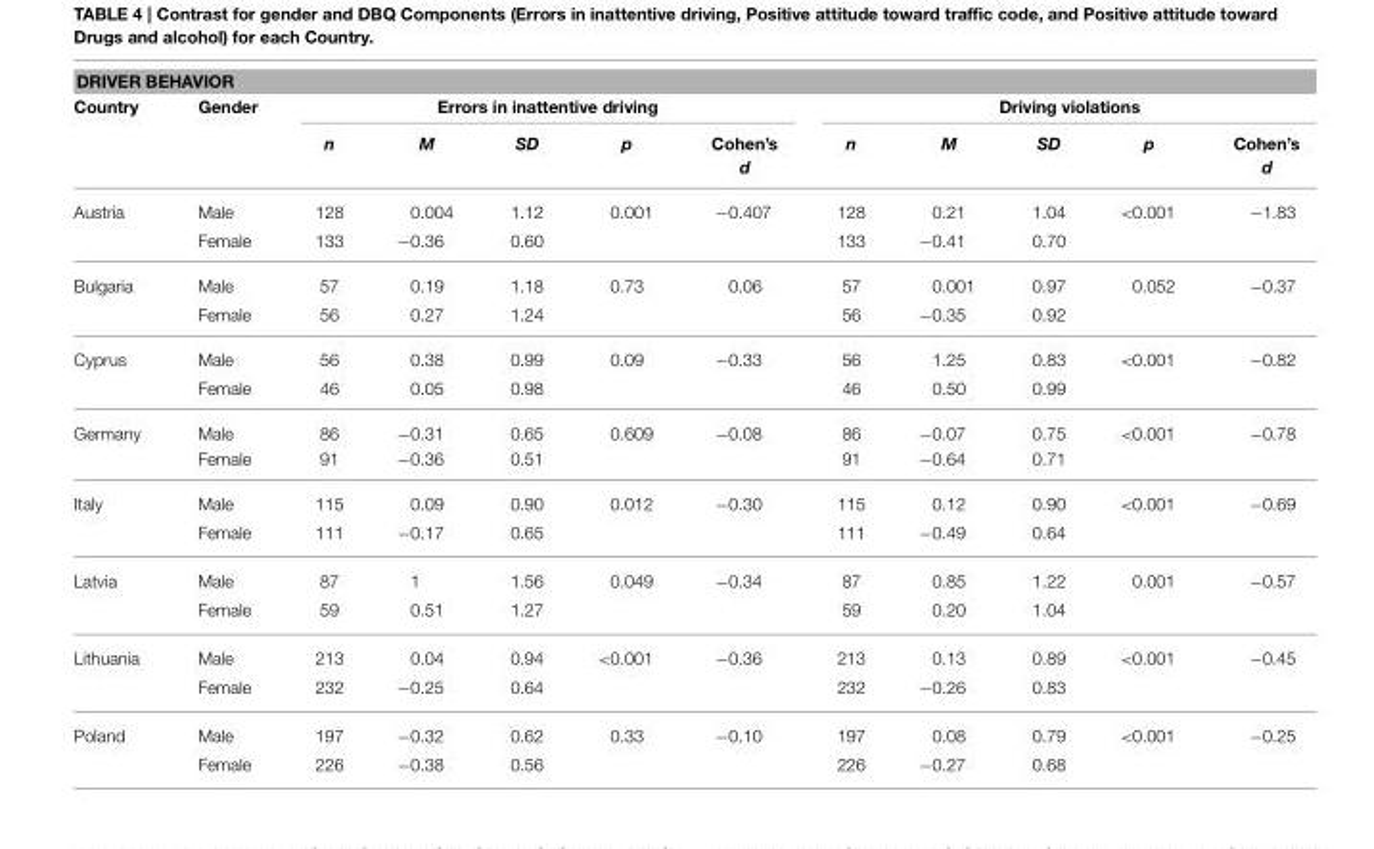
<table><thead><tr><td colspan="12">DRIVER BEHAVIOR</td></tr><tr><td rowspan="2">Country</td><td rowspan="2">Gender</td><td colspan="5">Errors in inattentive driving</td><td colspan="5">Driving violations</td></tr><tr><td>n</td><td>M</td><td>SD</td><td>p</td><td>Cohen’s d</td><td>n</td><td>M</td><td>SD</td><td>p</td><td>Cohen’s d</td></tr></thead><tbody><tr><td rowspan="2">Austria</td><td>Male</td><td>128</td><td>0.004</td><td>1.12</td><td>0.001</td><td>−0.407</td><td>128</td><td>0.21</td><td>1.04</td><td>&lt;0.001</td><td>−1.83</td></tr><tr><td>Female</td><td>133</td><td>−0.36</td><td>0.60</td><td></td><td></td><td>133</td><td>−0.41</td><td>0.70</td><td></td><td></td></tr><tr><td rowspan="2">Bulgaria</td><td>Male</td><td>57</td><td>0.19</td><td>1.18</td><td>0.73</td><td>0.06</td><td>57</td><td>0.001</td><td>0.97</td><td>0.052</td><td>−0.37</td></tr><tr><td>Female</td><td>56</td><td>0.27</td><td>1.24</td><td></td><td></td><td>56</td><td>−0.35</td><td>0.92</td><td></td><td></td></tr><tr><td rowspan="2">Cyprus</td><td>Male</td><td>56</td><td>0.38</td><td>0.99</td><td>0.09</td><td>−0.33</td><td>56</td><td>1.25</td><td>0.83</td><td>&lt;0.001</td><td>−0.82</td></tr><tr><td>Female</td><td>46</td><td>0.05</td><td>0.98</td><td></td><td></td><td>46</td><td>0.50</td><td>0.99</td><td></td><td></td></tr><tr><td rowspan="2">Germany</td><td>Male</td><td>86</td><td>−0.31</td><td>0.65</td><td>0.609</td><td>−0.08</td><td>86</td><td>−0.07</td><td>0.75</td><td>&lt;0.001</td><td>−0.78</td></tr><tr><td>Female</td><td>91</td><td>−0.36</td><td>0.51</td><td></td><td></td><td>91</td><td>−0.64</td><td>0.71</td><td></td><td></td></tr><tr><td rowspan="2">Italy</td><td>Male</td><td>115</td><td>0.09</td><td>0.90</td><td>0.012</td><td>−0.30</td><td>115</td><td>0.12</td><td>0.90</td><td>&lt;0.001</td><td>−0.69</td></tr><tr><td>Female</td><td>111</td><td>−0.17</td><td>0.65</td><td></td><td></td><td>111</td><td>−0.49</td><td>0.64</td><td></td><td></td></tr><tr><td rowspan="2">Latvia</td><td>Male</td><td>87</td><td>1</td><td>1.56</td><td>0.049</td><td>−0.34</td><td>87</td><td>0.85</td><td>1.22</td><td>0.001</td><td>−0.57</td></tr><tr><td>Female</td><td>59</td><td>0.51</td><td>1.27</td><td></td><td></td><td>59</td><td>0.20</td><td>1.04</td><td></td><td></td></tr><tr><td rowspan="2">Lithuania</td><td>Male</td><td>213</td><td>0.04</td><td>0.94</td><td>&lt;0.001</td><td>−0.36</td><td>213</td><td>0.13</td><td>0.89</td><td>&lt;0.001</td><td>−0.45</td></tr><tr><td>Female</td><td>232</td><td>−0.25</td><td>0.64</td><td></td><td></td><td>232</td><td>−0.26</td><td>0.83</td><td></td><td></td></tr><tr><td rowspan="2">Poland</td><td>Male</td><td>197</td><td>−0.32</td><td>0.62</td><td>0.33</td><td>−0.10</td><td>197</td><td>0.08</td><td>0.79</td><td>&lt;0.001</td><td>−0.25</td></tr><tr><td>Female</td><td>226</td><td>−0.38</td><td>0.56</td><td></td><td></td><td>226</td><td>−0.27</td><td>0.68</td><td></td><td></td></tr></tbody></table>